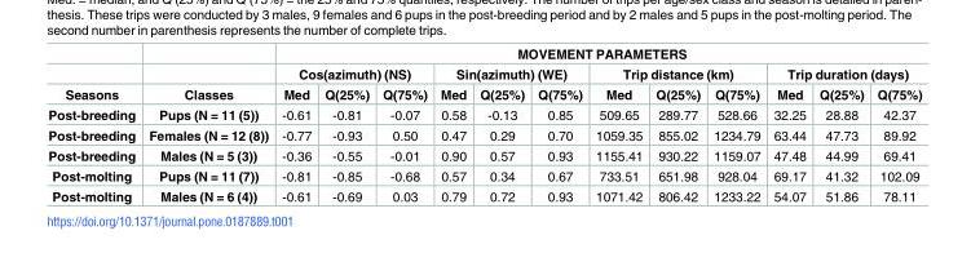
<table><thead><tr><td rowspan="3">Seasons</td><td rowspan="3">Classes</td><td colspan="12">MOVEMENT PARAMETERS</td></tr><tr><td colspan="3">Cos(azimuth) (NS)</td><td colspan="3">Sin(azimuth) (WE)</td><td colspan="3">Trip distance (km)</td><td colspan="3">Trip duration (days)</td></tr><tr><td>Med</td><td>Q(25%)</td><td>Q(75%)</td><td>Med</td><td>Q(25%)</td><td>Q(75%)</td><td>Med</td><td>Q(25%)</td><td>Q(75%)</td><td>Med</td><td>Q(25%)</td><td>Q(75%)</td></tr></thead><tbody><tr><td>Post-breeding</td><td>Pups (N = 11 (5))</td><td>-0.61</td><td>-0.81</td><td>-0.07</td><td>0.58</td><td>-0.13</td><td>0.85</td><td>509.65</td><td>289.77</td><td>528.66</td><td>32.25</td><td>28.88</td><td>42.37</td></tr><tr><td>Post-breeding</td><td>Females (N = 12 (8))</td><td>-0.77</td><td>-0.93</td><td>0.50</td><td>0.47</td><td>0.29</td><td>0.70</td><td>1059.35</td><td>855.02</td><td>1234.79</td><td>63.44</td><td>47.73</td><td>89.92</td></tr><tr><td>Post-breeding</td><td>Males (N = 5 (3))</td><td>-0.36</td><td>-0.55</td><td>-0.01</td><td>0.90</td><td>0.57</td><td>0.93</td><td>1155.41</td><td>930.22</td><td>1159.07</td><td>47.48</td><td>44.99</td><td>69.41</td></tr><tr><td>Post-molting</td><td>Pups (N = 11 (7))</td><td>-0.81</td><td>-0.85</td><td>-0.68</td><td>0.57</td><td>0.34</td><td>0.67</td><td>733.51</td><td>651.98</td><td>928.04</td><td>69.17</td><td>41.32</td><td>102.09</td></tr><tr><td>Post-molting</td><td>Males (N = 6 (4))</td><td>-0.61</td><td>-0.69</td><td>0.03</td><td>0.79</td><td>0.72</td><td>0.93</td><td>1071.42</td><td>806.42</td><td>1233.22</td><td>54.07</td><td>51.86</td><td>78.11</td></tr></tbody></table>